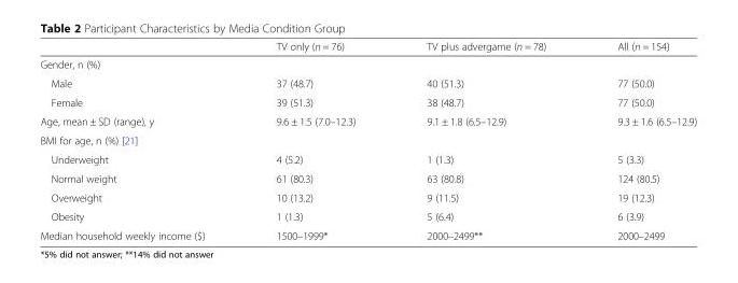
<table><thead><tr><td></td><td>TV only (n = 76)</td><td>TV plus advergame (n = 78)</td><td>All (n = 154)</td></tr></thead><tbody><tr><td colspan="4">Gender, n (%)</td></tr><tr><td>Male</td><td>37 (48.7)</td><td>40 (51.3)</td><td>77 (50.0)</td></tr><tr><td>Female</td><td>39 (51.3)</td><td>38 (48.7)</td><td>77 (50.0)</td></tr><tr><td>Age, mean ± SD (range), y</td><td>9.6 ± 1.5 (7.0–12.3)</td><td>9.1 ± 1.8 (6.5–12.9)</td><td>9.3 ± 1.6 (6.5–12.9)</td></tr><tr><td colspan="4">BMI for age, n (%) [21]</td></tr><tr><td>Underweight</td><td>4 (5.2)</td><td>1 (1.3)</td><td>5 (3.3)</td></tr><tr><td>Normal weight</td><td>61 (80.3)</td><td>63 (80.8)</td><td>124 (80.5)</td></tr><tr><td>Overweight</td><td>10 (13.2)</td><td>9 (11.5)</td><td>19 (12.3)</td></tr><tr><td>Obesity</td><td>1 (1.3)</td><td>5 (6.4)</td><td>6 (3.9)</td></tr><tr><td>Median household weekly income ($)</td><td>1500–1999*</td><td>2000–2499**</td><td>2000–2499</td></tr></tbody></table>